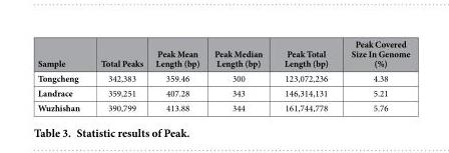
<table><thead><tr><td>Sample</td><td>Total Peaks</td><td>Peak Mean Length (bp)</td><td>Peak Median Length (bp)</td><td>Peak Total Length (bp)</td><td>Peak Covered Size In Genome (%)</td></tr></thead><tbody><tr><td>Tongcheng</td><td>342,383</td><td>359.46</td><td>300</td><td>123,072,236</td><td>4.38</td></tr><tr><td>Landrace</td><td>359,251</td><td>407.28</td><td>343</td><td>146,314,131</td><td>5.21</td></tr><tr><td>Wuzhishan</td><td>390,799</td><td>413.88</td><td>344</td><td>161,744,778</td><td>5.76</td></tr></tbody></table>